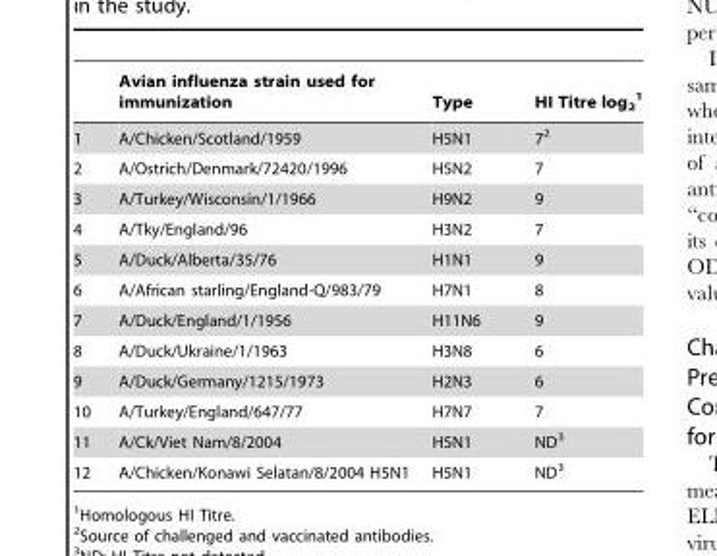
<table><thead><tr><td></td><td>Avian influenza strain used for immunization</td><td>Type</td><td>HI Titre log<sub>2</sub> 1</td></tr></thead><tbody><tr><td>1</td><td>A/Chicken/Scotland/1959</td><td>H5N1</td><td>7<sup>2</sup></td></tr><tr><td>2</td><td>A/Ostrich/Denmark/72420/1996</td><td>H5N2</td><td>7</td></tr><tr><td>3</td><td>A/Turkey/Wisconsin/1/1966</td><td>H9N2</td><td>9</td></tr><tr><td>4</td><td>A/Tky/England/96</td><td>H3N2</td><td>7</td></tr><tr><td>5</td><td>A/Duck/Alberta/35/76</td><td>H1N1</td><td>9</td></tr><tr><td>6</td><td>A/African starling/England-Q/983/79</td><td>H7N1</td><td>8</td></tr><tr><td>7</td><td>A/Duck/England/1/1956</td><td>H11N6</td><td>9</td></tr><tr><td>8</td><td>A/Duck/Ukraine/1/1963</td><td>H3N8</td><td>6</td></tr><tr><td>9</td><td>A/Duck/Germany/1215/1973</td><td>H2N3</td><td>6</td></tr><tr><td>10</td><td>A/Turkey/England/647/77</td><td>H7N7</td><td>7</td></tr><tr><td>11</td><td>A/Ck/Viet Nam/8/2004</td><td>H5N1</td><td>ND<sup>3</sup></td></tr><tr><td>12</td><td>A/Chicken/Konawi Selatan/8/2004 H5N1</td><td>H5N1</td><td>ND<sup>3</sup></td></tr></tbody></table>